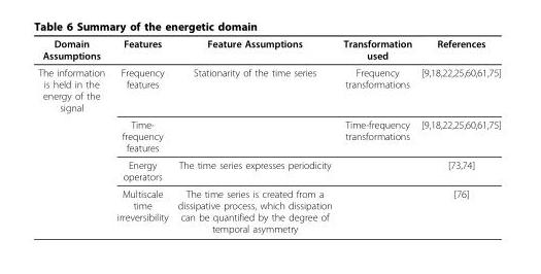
<table><thead><tr><td>Domain Assumptions</td><td>Features</td><td>Feature Assumptions</td><td>Transformation used</td><td>References</td></tr></thead><tbody><tr><td rowspan="4">The information is held in the energy of the signal</td><td>Frequency features</td><td>Stationarity of the time series</td><td>Frequency transformations</td><td>[9,18,22,25,60,61,75]</td></tr><tr><td>Time- frequency features</td><td></td><td>Time-frequency transformations</td><td>[9,18,22,25,60,61,75]</td></tr><tr><td>Energy operators</td><td>The time series expresses periodicity</td><td></td><td>[73,74]</td></tr><tr><td>Multiscale time irreversibility</td><td>The time series is created from a dissipative process, which dissipation can be quantified by the degree of temporal asymmetry</td><td></td><td>[76]</td></tr></tbody></table>